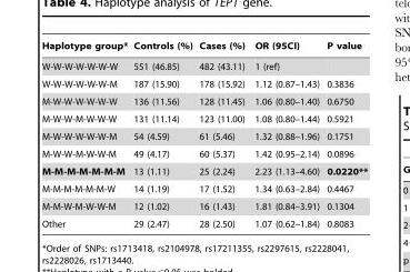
<table><thead><tr><td>Haplotype group*</td><td>Controls (%)</td><td>Cases (%)</td><td>OR (95CI)</td><td>P value</td></tr></thead><tbody><tr><td>W-W-W-W-W-W-W</td><td>551 (46.85)</td><td>482 (43.11)</td><td>1 (ref)</td><td></td></tr><tr><td>W-W-W-W-W-W-M</td><td>187 (15.90)</td><td>178 (15.92)</td><td>1.12 (0.87–1.43)</td><td>0.3836</td></tr><tr><td>M-W-W-W-W-W-W</td><td>136 (11.56)</td><td>128 (11.45)</td><td>1.06 (0.80–1.40)</td><td>0.6750</td></tr><tr><td>M-W-W-M-W-W-W</td><td>131 (11.14)</td><td>123 (11.00)</td><td>1.08 (0.80–1.44)</td><td>0.5921</td></tr><tr><td>M-W-W-W-W-W-M</td><td>54 (4.59)</td><td>61 (5.46)</td><td>1.32 (0.88–1.96)</td><td>0.1751</td></tr><tr><td>M-W-W-M-W-W-M</td><td>49 (4.17)</td><td>60 (5.37)</td><td>1.42 (0.95–2.14)</td><td>0.0896</td></tr><tr><td>M-M-M-M-M-M-M</td><td>13 (1.11)</td><td>25 (2.24)</td><td>2.23 (1.13–4.60)</td><td>0.0220**</td></tr><tr><td>M-M-M-M-M-M-W</td><td>14 (1.19)</td><td>17 (1.52)</td><td>1.34 (0.63–2.84)</td><td>0.4467</td></tr><tr><td>M-M-W-M-W-W-M</td><td>12 (1.02)</td><td>16 (1.43)</td><td>1.81 (0.84–3.91)</td><td>0.1304</td></tr><tr><td>Other</td><td>29 (2.47)</td><td>28 (2.50)</td><td>1.07 (0.62–1.84)</td><td>0.8083</td></tr></tbody></table>